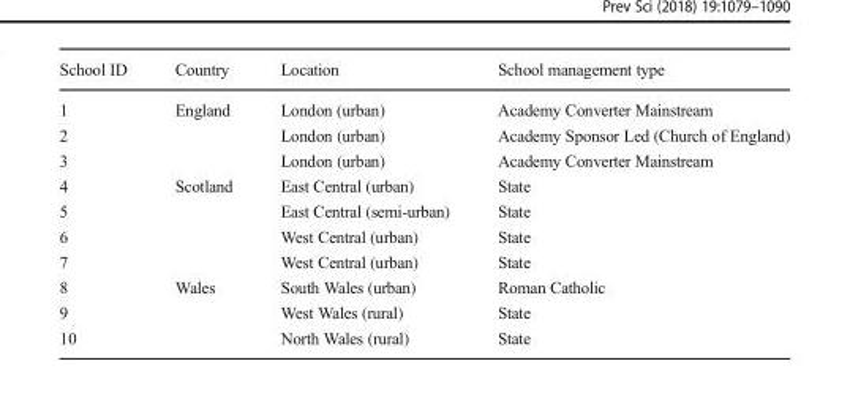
<table><thead><tr><td>School ID</td><td>Country</td><td>Location</td><td>School management type</td></tr></thead><tbody><tr><td>1</td><td>England</td><td>London (urban)</td><td>Academy Converter Mainstream</td></tr><tr><td>2</td><td></td><td>London (urban)</td><td>Academy Sponsor Led (Church of England)</td></tr><tr><td>3</td><td></td><td>London (urban)</td><td>Academy Converter Mainstream</td></tr><tr><td>4</td><td>Scotland</td><td>East Central (urban)</td><td>State</td></tr><tr><td>5</td><td></td><td>East Central (semi-urban)</td><td>State</td></tr><tr><td>6</td><td></td><td>West Central (urban)</td><td>State</td></tr><tr><td>7</td><td></td><td>West Central (urban)</td><td>State</td></tr><tr><td>8</td><td>Wales</td><td>South Wales (urban)</td><td>Roman Catholic</td></tr><tr><td>9</td><td></td><td>West Wales (rural)</td><td>State</td></tr><tr><td>10</td><td></td><td>North Wales (rural)</td><td>State</td></tr></tbody></table>